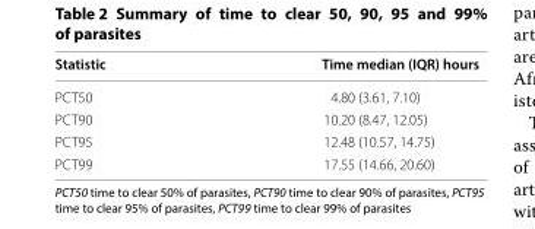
<table><thead><tr><td>Statistic</td><td>Time median (IQR) hours</td></tr></thead><tbody><tr><td>PCT50</td><td>4.80 (3.61, 7.10)</td></tr><tr><td>PCT90</td><td>10.20 (8.47, 12.05)</td></tr><tr><td>PCT95</td><td>12.48 (10.57, 14.75)</td></tr><tr><td>PCT99</td><td>17.55 (14.66, 20.60)</td></tr></tbody></table>